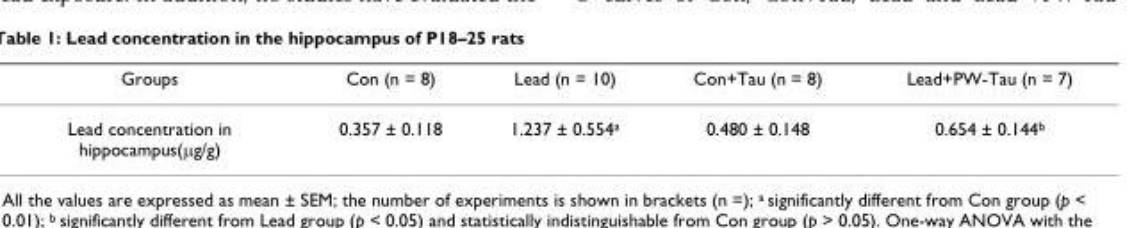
<table><thead><tr><td>Groups</td><td>Con (n = 8)</td><td>Lead (n = 10)</td><td>Con+Tau (n = 8)</td><td>Lead+PW-Tau (n = 7)</td></tr></thead><tbody><tr><td>Lead concentration in hippocampus(µg/g)</td><td>0.357 ± 0.118</td><td>1.237 ± 0.554<sup>a</sup></td><td>0.480 ± 0.148</td><td>0.654 ± 0.144<sup>b</sup></td></tr></tbody></table>